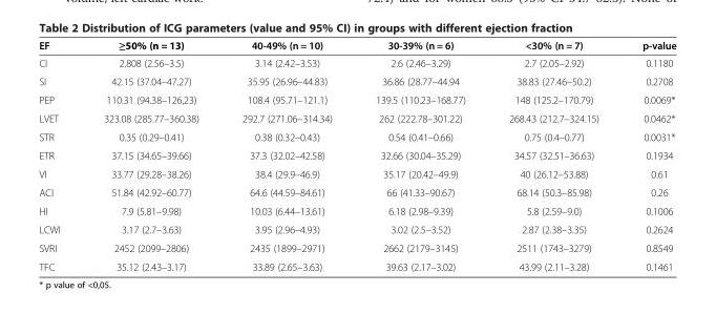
<table><thead><tr><td>EF</td><td>≥50% (n = 13)</td><td>40-49% (n = 10)</td><td>30-39% (n = 6)</td><td>&lt;30% (n = 7)</td><td>p-value</td></tr></thead><tbody><tr><td>CI</td><td>2.808 (2.56–3.5)</td><td>3.14 (2.42–3.53)</td><td>2.6 (2.46–3.29)</td><td>2.7 (2.05–2.92)</td><td>0.1180</td></tr><tr><td>SI</td><td>42.15 (37.04–47.27)</td><td>35.95 (26.96–44.83)</td><td>36.86 (28.77–44.94</td><td>38.83 (27.46–50.2)</td><td>0.2708</td></tr><tr><td>PEP</td><td>110.31 (94.38–126,23)</td><td>108.4 (95.71–121.1)</td><td>139.5 (110.23–168.77)</td><td>148 (125.2–170.79)</td><td>0.0069*</td></tr><tr><td>LVET</td><td>323.08 (285.77–360.38)</td><td>292.7 (271.06–314.34)</td><td>262 (222.78–301.22)</td><td>268.43 (212.7–324.15)</td><td>0.0462*</td></tr><tr><td>STR</td><td>0.35 (0.29–0.41)</td><td>0.38 (0.32–0.43)</td><td>0.54 (0.41–0.66)</td><td>0.75 (0.4–0.77)</td><td>0.0031*</td></tr><tr><td>ETR</td><td>37.15 (34.65–39.66)</td><td>37.3 (32.02–42.58)</td><td>32.66 (30.04–35.29)</td><td>34.57 (32.51–36.63)</td><td>0.1934</td></tr><tr><td>VI</td><td>33.77 (29.28–38.26)</td><td>38.4 (29.9–46.9)</td><td>35.17 (20.42–49.9)</td><td>40 (26.12–53.88)</td><td>0.61</td></tr><tr><td>ACI</td><td>51.84 (42.92–60.77)</td><td>64.6 (44.59–84.61)</td><td>66 (41.33–90.67)</td><td>68.14 (50.3–85.98)</td><td>0.26</td></tr><tr><td>HI</td><td>7.9 (5.81–9.98)</td><td>10.03 (6.44–13.61)</td><td>6.18 (2.98–9.39)</td><td>5.8 (2.59–9.0)</td><td>0.1006</td></tr><tr><td>LCWI</td><td>3.17 (2.7–3.63)</td><td>3.95 (2.96–4.93)</td><td>3.02 (2.5–3.52)</td><td>2.87 (2.38–3.35)</td><td>0.2624</td></tr><tr><td>SVRI</td><td>2452 (2099–2806)</td><td>2435 (1899–2971)</td><td>2662 (2179–3145)</td><td>2511 (1743–3279)</td><td>0.8549</td></tr><tr><td>TFC</td><td>35.12 (2.43–3.17)</td><td>33.89 (2.65–3.63)</td><td>39.63 (2.17–3.02)</td><td>43.99 (2.11–3.28)</td><td>0.1461</td></tr></tbody></table>